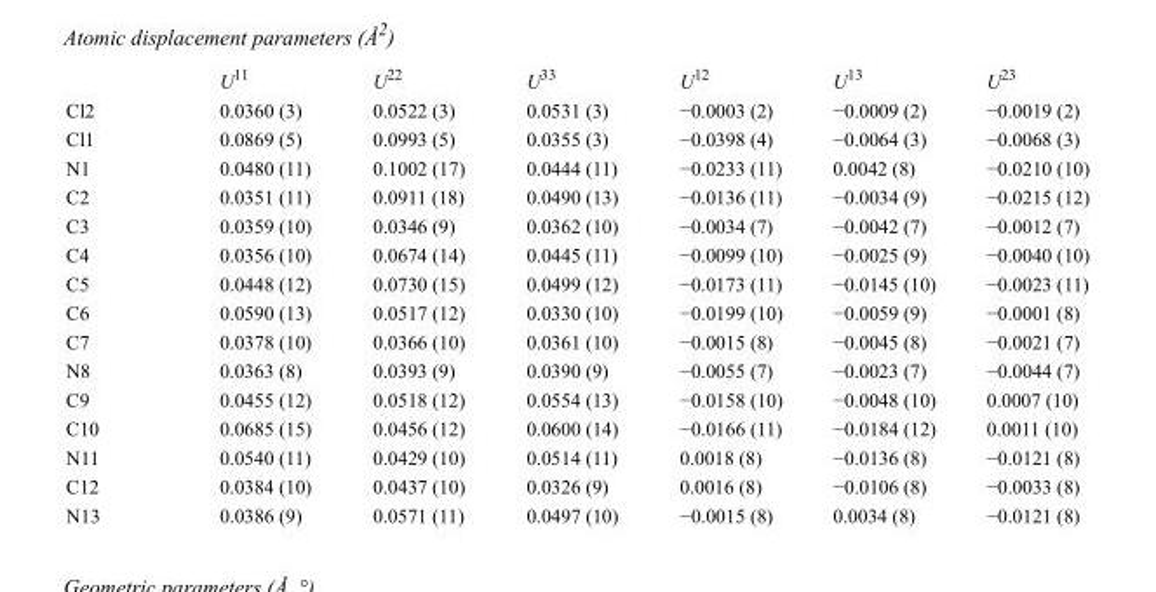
<table><thead><tr><td></td><td>U<sup>11</sup></td><td>U<sup>22</sup></td><td>U<sup>33</sup></td><td>U<sup>12</sup></td><td>U<sup>13</sup></td><td>U<sup>23</sup></td></tr></thead><tbody><tr><td>Cl2</td><td>0.0360 (3)</td><td>0.0522 (3)</td><td>0.0531 (3)</td><td>−0.0003 (2)</td><td>−0.0009 (2)</td><td>−0.0019 (2)</td></tr><tr><td>Cl1</td><td>0.0869 (5)</td><td>0.0993 (5)</td><td>0.0355 (3)</td><td>−0.0398 (4)</td><td>−0.0064 (3)</td><td>−0.0068 (3)</td></tr><tr><td>N1</td><td>0.0480 (11)</td><td>0.1002 (17)</td><td>0.0444 (11)</td><td>−0.0233 (11)</td><td>0.0042 (8)</td><td>−0.0210 (10)</td></tr><tr><td>C2</td><td>0.0351 (11)</td><td>0.0911 (18)</td><td>0.0490 (13)</td><td>−0.0136 (11)</td><td>−0.0034 (9)</td><td>−0.0215 (12)</td></tr><tr><td>C3</td><td>0.0359 (10)</td><td>0.0346 (9)</td><td>0.0362 (10)</td><td>−0.0034 (7)</td><td>−0.0042 (7)</td><td>−0.0012 (7)</td></tr><tr><td>C4</td><td>0.0356 (10)</td><td>0.0674 (14)</td><td>0.0445 (11)</td><td>−0.0099 (10)</td><td>−0.0025 (9)</td><td>−0.0040 (10)</td></tr><tr><td>C5</td><td>0.0448 (12)</td><td>0.0730 (15)</td><td>0.0499 (12)</td><td>−0.0173 (11)</td><td>−0.0145 (10)</td><td>−0.0023 (11)</td></tr><tr><td>C6</td><td>0.0590 (13)</td><td>0.0517 (12)</td><td>0.0330 (10)</td><td>−0.0199 (10)</td><td>−0.0059 (9)</td><td>−0.0001 (8)</td></tr><tr><td>C7</td><td>0.0378 (10)</td><td>0.0366 (10)</td><td>0.0361 (10)</td><td>−0.0015 (8)</td><td>−0.0045 (8)</td><td>−0.0021 (7)</td></tr><tr><td>N8</td><td>0.0363 (8)</td><td>0.0393 (9)</td><td>0.0390 (9)</td><td>−0.0055 (7)</td><td>−0.0023 (7)</td><td>−0.0044 (7)</td></tr><tr><td>C9</td><td>0.0455 (12)</td><td>0.0518 (12)</td><td>0.0554 (13)</td><td>−0.0158 (10)</td><td>−0.0048 (10)</td><td>0.0007 (10)</td></tr><tr><td>C10</td><td>0.0685 (15)</td><td>0.0456 (12)</td><td>0.0600 (14)</td><td>−0.0166 (11)</td><td>−0.0184 (12)</td><td>0.0011 (10)</td></tr><tr><td>N11</td><td>0.0540 (11)</td><td>0.0429 (10)</td><td>0.0514 (11)</td><td>0.0018 (8)</td><td>−0.0136 (8)</td><td>−0.0121 (8)</td></tr><tr><td>C12</td><td>0.0384 (10)</td><td>0.0437 (10)</td><td>0.0326 (9)</td><td>0.0016 (8)</td><td>−0.0106 (8)</td><td>−0.0033 (8)</td></tr><tr><td>N13</td><td>0.0386 (9)</td><td>0.0571 (11)</td><td>0.0497 (10)</td><td>−0.0015 (8)</td><td>0.0034 (8)</td><td>−0.0121 (8)</td></tr></tbody></table>